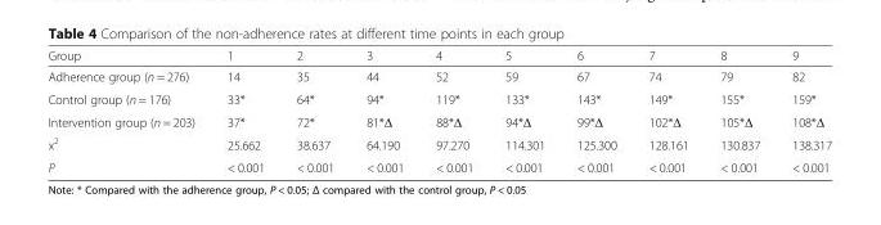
<table><thead><tr><td>Group</td><td>1</td><td>2</td><td>3</td><td>4</td><td>5</td><td>6</td><td>7</td><td>8</td><td>9</td></tr></thead><tbody><tr><td>Adherence group (n = 276)</td><td>14</td><td>35</td><td>44</td><td>52</td><td>59</td><td>67</td><td>74</td><td>79</td><td>82</td></tr><tr><td>Control group (n = 176)</td><td>33*</td><td>64*</td><td>94*</td><td>119*</td><td>133*</td><td>143*</td><td>149*</td><td>155*</td><td>159*</td></tr><tr><td>Intervention group (n = 203)</td><td>37*</td><td>72*</td><td>81*Δ</td><td>88*Δ</td><td>94*Δ</td><td>99*Δ</td><td>102*Δ</td><td>105*Δ</td><td>108*Δ</td></tr><tr><td>x<sup>2</sup></td><td>25.662</td><td>38.637</td><td>64.190</td><td>97.270</td><td>114.301</td><td>125.300</td><td>128.161</td><td>130.837</td><td>138.317</td></tr><tr><td>P</td><td>&lt; 0.001</td><td>&lt; 0.001</td><td>&lt; 0.001</td><td>&lt; 0.001</td><td>&lt; 0.001</td><td>&lt; 0.001</td><td>&lt; 0.001</td><td>&lt; 0.001</td><td>&lt; 0.001</td></tr></tbody></table>